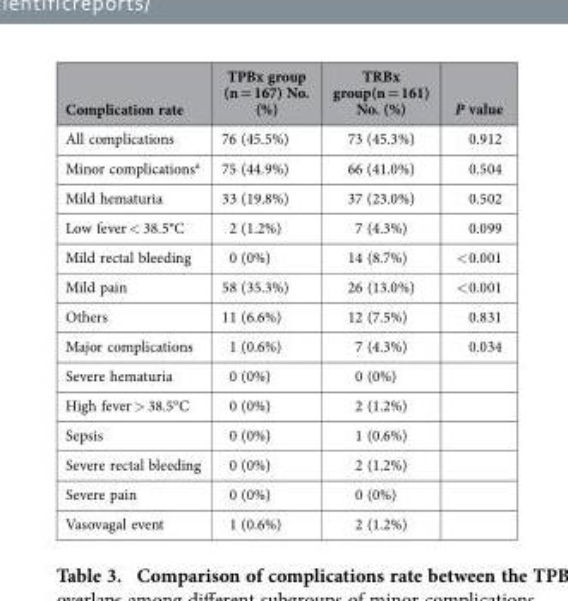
<table><thead><tr><td>Complication rate</td><td>TPBx group (n = 167) No. (%)</td><td>TRBx group(n = 161) No. (%)</td><td>P value</td></tr></thead><tbody><tr><td>All complications</td><td>76 (45.5%)</td><td>73 (45.3%)</td><td>0.912</td></tr><tr><td>Minor complications<sup>a</sup></td><td>75 (44.9%)</td><td>66 (41.0%)</td><td>0.504</td></tr><tr><td>Mild hematuria</td><td>33 (19.8%)</td><td>37 (23.0%)</td><td>0.502</td></tr><tr><td>Low fever &lt; 38.5°C</td><td>2 (1.2%)</td><td>7 (4.3%)</td><td>0.099</td></tr><tr><td>Mild rectal bleeding</td><td>0 (0%)</td><td>14 (8.7%)</td><td>&lt; 0.001</td></tr><tr><td>Mild pain</td><td>58 (35.3%)</td><td>26 (13.0%)</td><td>&lt; 0.001</td></tr><tr><td>Others</td><td>11 (6.6%)</td><td>12 (7.5%)</td><td>0.831</td></tr><tr><td>Major complications</td><td>1 (0.6%)</td><td>7 (4.3%)</td><td>0.034</td></tr><tr><td>Severe hematuria</td><td>0 (0%)</td><td>0 (0%)</td><td></td></tr><tr><td>High fever &gt; 38.5°C</td><td>0 (0%)</td><td>2 (1.2%)</td><td></td></tr><tr><td>Sepsis</td><td>0 (0%)</td><td>1 (0.6%)</td><td></td></tr><tr><td>Severe rectal bleeding</td><td>0 (0%)</td><td>2 (1.2%)</td><td></td></tr><tr><td>Severe pain</td><td>0 (0%)</td><td>0 (0%)</td><td></td></tr><tr><td>Vasovagal event</td><td>1 (0.6%)</td><td>2 (1.2%)</td><td></td></tr></tbody></table>